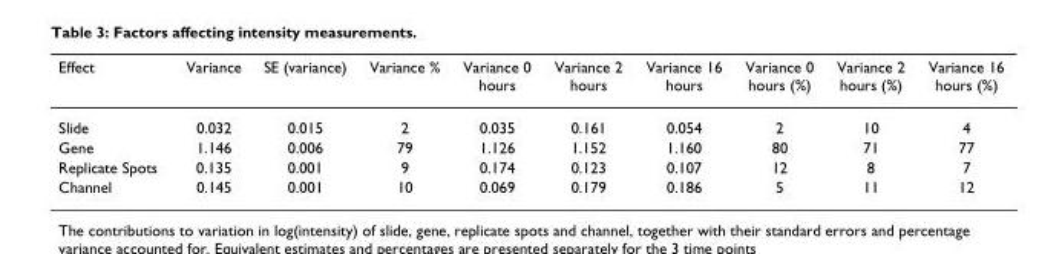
<table><thead><tr><td>Effect</td><td>Variance</td><td>SE (variance)</td><td>Variance %</td><td>Variance 0 hours</td><td>Variance 2 hours</td><td>Variance 16 hours</td><td>Variance 0 hours (%)</td><td>Variance 2 hours (%)</td><td>Variance 16 hours (%)</td></tr></thead><tbody><tr><td>Slide</td><td>0.032</td><td>0.015</td><td>2</td><td>0.035</td><td>0.161</td><td>0.054</td><td>2</td><td>10</td><td>4</td></tr><tr><td>Gene</td><td>1.146</td><td>0.006</td><td>79</td><td>1.126</td><td>1.152</td><td>1.160</td><td>80</td><td>71</td><td>77</td></tr><tr><td>Replicate Spots</td><td>0.135</td><td>0.001</td><td>9</td><td>0.174</td><td>0.123</td><td>0.107</td><td>12</td><td>8</td><td>7</td></tr><tr><td>Channel</td><td>0.145</td><td>0.001</td><td>10</td><td>0.069</td><td>0.179</td><td>0.186</td><td>5</td><td>11</td><td>12</td></tr></tbody></table>